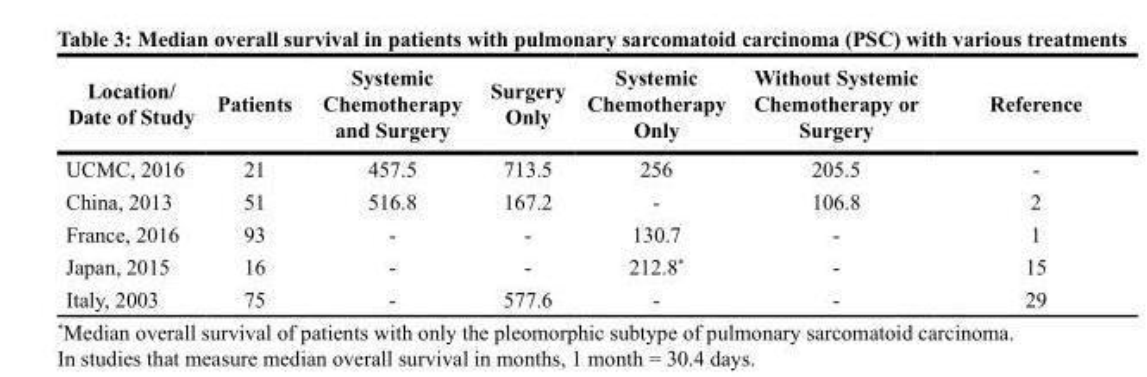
<table><thead><tr><td>Location/ Date of Study</td><td>Patients</td><td>Systemic Chemotherapy and Surgery</td><td>Surgery Only</td><td>Systemic Chemotherapy Only</td><td>Without Systemic Chemotherapy or Surgery</td><td>Reference</td></tr></thead><tbody><tr><td>UCMC, 2016</td><td>21</td><td>457.5</td><td>713.5</td><td>256</td><td>205.5</td><td>-</td></tr><tr><td>China, 2013</td><td>51</td><td>516.8</td><td>167.2</td><td>-</td><td>106.8</td><td>2</td></tr><tr><td>France, 2016</td><td>93</td><td>-</td><td>-</td><td>130.7</td><td>-</td><td>1</td></tr><tr><td>Japan, 2015</td><td>16</td><td>-</td><td>-</td><td>212.8*</td><td>-</td><td>15</td></tr><tr><td>Italy, 2003</td><td>75</td><td>-</td><td>577.6</td><td>-</td><td>-</td><td>29</td></tr></tbody></table>